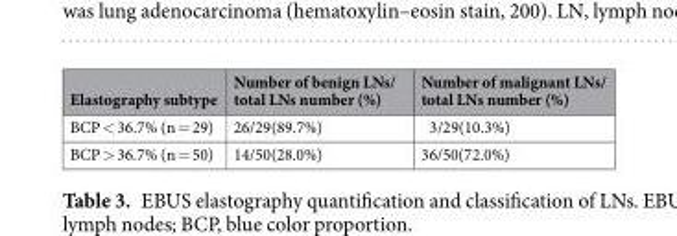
<table><thead><tr><td>Elastography subtype</td><td>Number of benign LNs/ total LNs number (%)</td><td>Number of malignant LNs/ total LNs number (%)</td></tr></thead><tbody><tr><td>BCP &lt; 36.7% (n = 29)</td><td>26/29(89.7%)</td><td>3/29(10.3%)</td></tr><tr><td>BCP &gt; 36.7% (n = 50)</td><td>14/50(28.0%)</td><td>36/50(72.0%)</td></tr></tbody></table>